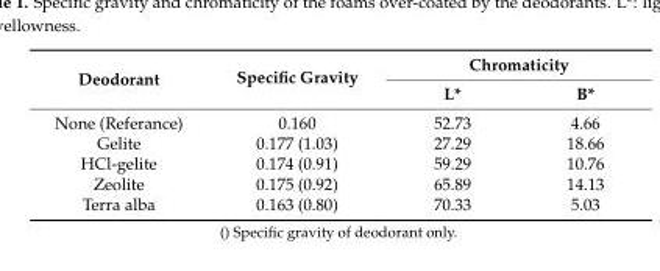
<table><thead><tr><td rowspan="2">Deodorant</td><td rowspan="2">Specific Gravity</td><td colspan="2">Chromaticity</td></tr><tr><td>L*</td><td>B*</td></tr></thead><tbody><tr><td>None (Referance)</td><td>0.160</td><td>52.73</td><td>4.66</td></tr><tr><td>Gelite</td><td>0.177 (1.03)</td><td>27.29</td><td>18.66</td></tr><tr><td>HCl-gelite</td><td>0.174 (0.91)</td><td>59.29</td><td>10.76</td></tr><tr><td>Zeolite</td><td>0.175 (0.92)</td><td>65.89</td><td>14.13</td></tr><tr><td>Terra alba</td><td>0.163 (0.80)</td><td>70.33</td><td>5.03</td></tr></tbody></table>